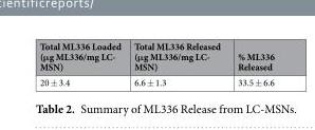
<table><thead><tr><td>Total ML336 Loaded (μg ML336/mg LC- MSN)</td><td>Total ML336 Released (μg ML336/mg LC- MSN)</td><td>% ML336 Released</td></tr></thead><tbody><tr><td>20 ± 3.4</td><td>6.6 ± 1.3</td><td>33.5 ± 6.6</td></tr></tbody></table>